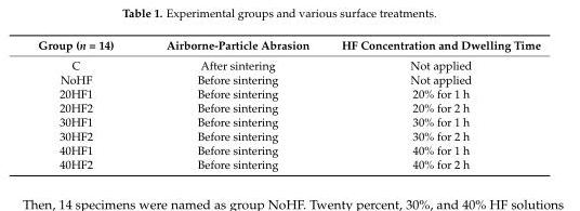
<table><thead><tr><td>Group (n = 14)</td><td>Airborne-Particle Abrasion</td><td>HF Concentration and Dwelling Time</td></tr></thead><tbody><tr><td>C</td><td>After sintering</td><td>Not applied</td></tr><tr><td>NoHF</td><td>Before sintering</td><td>Not applied</td></tr><tr><td>20HF1</td><td>Before sintering</td><td>20% for 1 h</td></tr><tr><td>20HF2</td><td>Before sintering</td><td>20% for 2 h</td></tr><tr><td>30HF1</td><td>Before sintering</td><td>30% for 1 h</td></tr><tr><td>30HF2</td><td>Before sintering</td><td>30% for 2 h</td></tr><tr><td>40HF1</td><td>Before sintering</td><td>40% for 1 h</td></tr><tr><td>40HF2</td><td>Before sintering</td><td>40% for 2 h</td></tr></tbody></table>